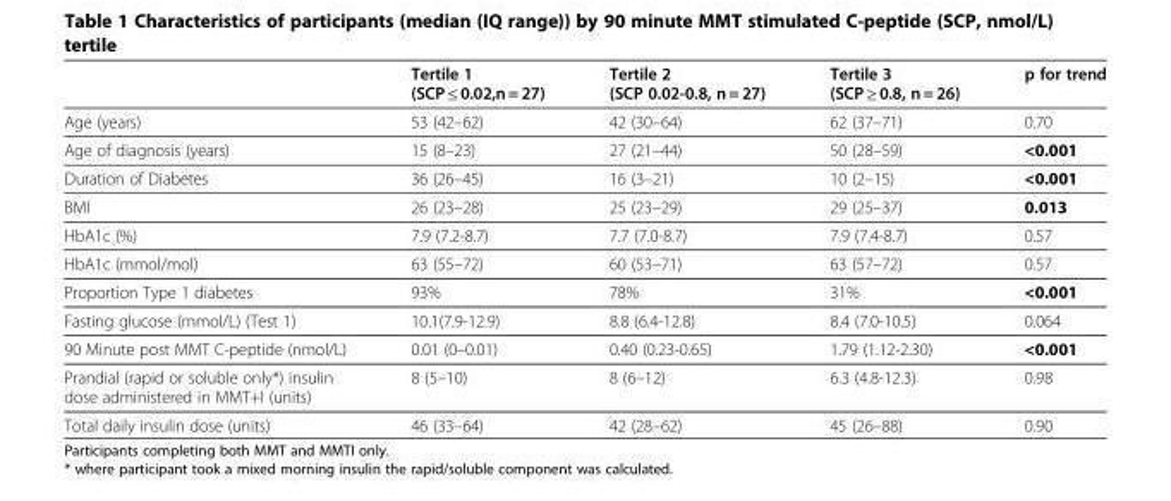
<table><thead><tr><td></td><td>Tertile 1 (SCP ≤ 0.02,n = 27)</td><td>Tertile 2 (SCP 0.02-0.8, n = 27)</td><td>Tertile 3 (SCP ≥ 0.8, n = 26)</td><td>p for trend</td></tr></thead><tbody><tr><td>Age (years)</td><td>53 (42–62)</td><td>42 (30–64)</td><td>62 (37–71)</td><td>0.70</td></tr><tr><td>Age of diagnosis (years)</td><td>15 (8–23)</td><td>27 (21–44)</td><td>50 (28–59)</td><td>&lt;0.001</td></tr><tr><td>Duration of Diabetes</td><td>36 (26–45)</td><td>16 (3–21)</td><td>10 (2–15)</td><td>&lt;0.001</td></tr><tr><td>BMI</td><td>26 (23–28)</td><td>25 (23–29)</td><td>29 (25–37)</td><td>0.013</td></tr><tr><td>HbA1c (%)</td><td>7.9 (7.2-8.7)</td><td>7.7 (7.0-8.7)</td><td>7.9 (7.4-8.7)</td><td>0.57</td></tr><tr><td>HbA1c (mmol/mol)</td><td>63 (55–72)</td><td>60 (53–71)</td><td>63 (57–72)</td><td>0.57</td></tr><tr><td>Proportion Type 1 diabetes</td><td>93%</td><td>78%</td><td>31%</td><td>&lt;0.001</td></tr><tr><td>Fasting glucose (mmol/L) (Test 1)</td><td>10.1(7.9-12.9)</td><td>8.8 (6.4-12.8)</td><td>8.4 (7.0-10.5)</td><td>0.064</td></tr><tr><td>90 Minute post MMT C-peptide (nmol/L)</td><td>0.01 (0–0.01)</td><td>0.40 (0.23-0.65)</td><td>1.79 (1.12-2.30)</td><td>&lt;0.001</td></tr><tr><td>Prandial (rapid or soluble only*) insulin dose administered in MMT+I (units)</td><td>8 (5–10)</td><td>8 (6–12)</td><td>6.3 (4.8-12.3)</td><td>0.98</td></tr><tr><td>Total daily insulin dose (units)</td><td>46 (33–64)</td><td>42 (28–62)</td><td>45 (26–88)</td><td>0.90</td></tr></tbody></table>